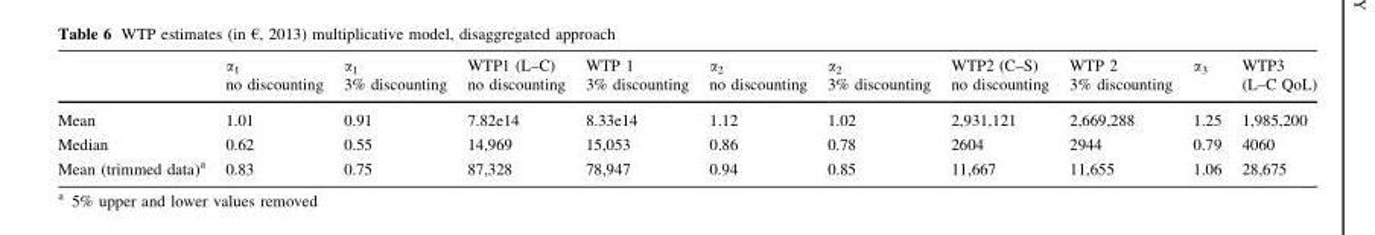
<table><thead><tr><td></td><td>α<sub>1</sub> no discounting</td><td>α<sub>1</sub> 3% discounting</td><td>WTP1 (L–C) no discounting</td><td>WTP 1 3% discounting</td><td>α<sub>2</sub> no discounting</td><td>α<sub>2</sub> 3% discounting</td><td>WTP2 (C–S) no discounting</td><td>WTP 2 3% discounting</td><td>α<sub>3</sub></td><td>WTP3 (L–C QoL)</td></tr></thead><tbody><tr><td>Mean</td><td>1.01</td><td>0.91</td><td>7.82e14</td><td>8.33e14</td><td>1.12</td><td>1.02</td><td>2,931,121</td><td>2,669,288</td><td>1.25</td><td>1,985,200</td></tr><tr><td>Median</td><td>0.62</td><td>0.55</td><td>14,969</td><td>15,053</td><td>0.86</td><td>0.78</td><td>2604</td><td>2944</td><td>0.79</td><td>4060</td></tr><tr><td>Mean (trimmed data)<sup>a</sup></td><td>0.83</td><td>0.75</td><td>87,328</td><td>78,947</td><td>0.94</td><td>0.85</td><td>11,667</td><td>11,655</td><td>1.06</td><td>28,675</td></tr></tbody></table>